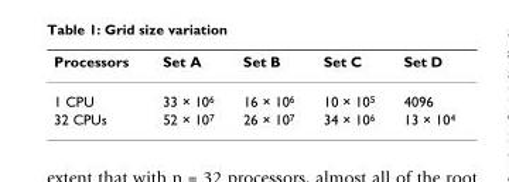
<table><thead><tr><td>Processors</td><td>Set A</td><td>Set B</td><td>Set C</td><td>Set D</td></tr></thead><tbody><tr><td>1 CPU</td><td>33 × 10<sup>6</sup></td><td>16 × 10<sup>6</sup></td><td>10 × 10<sup>5</sup></td><td>4096</td></tr><tr><td>32 CPUs</td><td>52 × 10<sup>7</sup></td><td>26 × 10<sup>7</sup></td><td>34 × 10<sup>6</sup></td><td>13 × 10<sup>4</sup></td></tr></tbody></table>